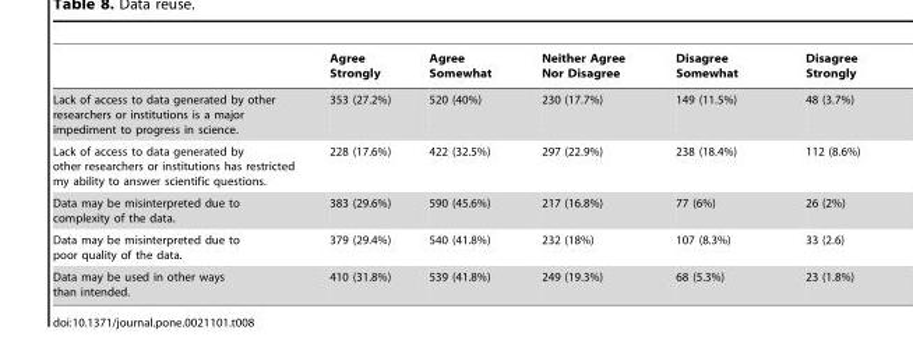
<table><thead><tr><td></td><td>Agree Strongly</td><td>Agree Somewhat</td><td>Neither Agree Nor Disagree</td><td>Disagree Somewhat</td><td>Disagree Strongly</td></tr></thead><tbody><tr><td>Lack of access to data generated by other researchers or institutions is a major impediment to progress in science.</td><td>353 (27.2%)</td><td>520 (40%)</td><td>230 (17.7%)</td><td>149 (11.5%)</td><td>48 (3.7%)</td></tr><tr><td>Lack of access to data generated by other researchers or institutions has restricted my ability to answer scientific questions.</td><td>228 (17.6%)</td><td>422 (32.5%)</td><td>297 (22.9%)</td><td>238 (18.4%)</td><td>112 (8.6%)</td></tr><tr><td>Data may be misinterpreted due to complexity of the data.</td><td>383 (29.6%)</td><td>590 (45.6%)</td><td>217 (16.8%)</td><td>77 (6%)</td><td>26 (2%)</td></tr><tr><td>Data may be misinterpreted due to poor quality of the data.</td><td>379 (29.4%)</td><td>540 (41.8%)</td><td>232 (18%)</td><td>107 (8.3%)</td><td>33 (2.6)</td></tr><tr><td>Data may be used in other ways than intended.</td><td>410 (31.8%)</td><td>539 (41.8%)</td><td>249 (19.3%)</td><td>68 (5.3%)</td><td>23 (1.8%)</td></tr></tbody></table>